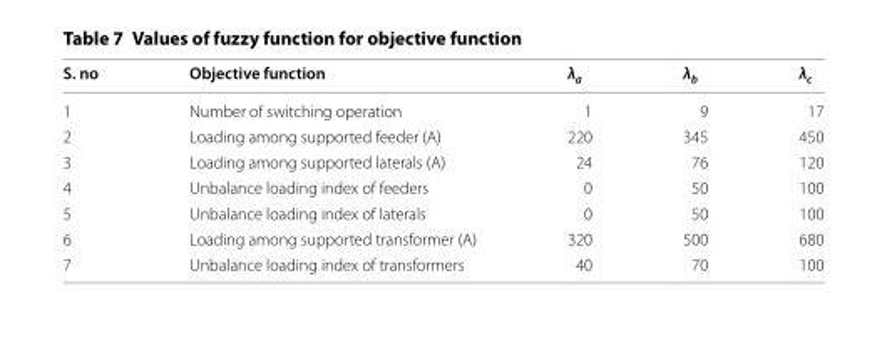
<table><thead><tr><td>S. no</td><td>Objective function</td><td>λ<sub>a</sub></td><td>λ<sub>b</sub></td><td>λ<sub>c</sub></td></tr></thead><tbody><tr><td>1</td><td>Number of switching operation</td><td>1</td><td>9</td><td>17</td></tr><tr><td>2</td><td>Loading among supported feeder (A)</td><td>220</td><td>345</td><td>450</td></tr><tr><td>3</td><td>Loading among supported laterals (A)</td><td>24</td><td>76</td><td>120</td></tr><tr><td>4</td><td>Unbalance loading index of feeders</td><td>0</td><td>50</td><td>100</td></tr><tr><td>5</td><td>Unbalance loading index of laterals</td><td>0</td><td>50</td><td>100</td></tr><tr><td>6</td><td>Loading among supported transformer (A)</td><td>320</td><td>500</td><td>680</td></tr><tr><td>7</td><td>Unbalance loading index of transformers</td><td>40</td><td>70</td><td>100</td></tr></tbody></table>